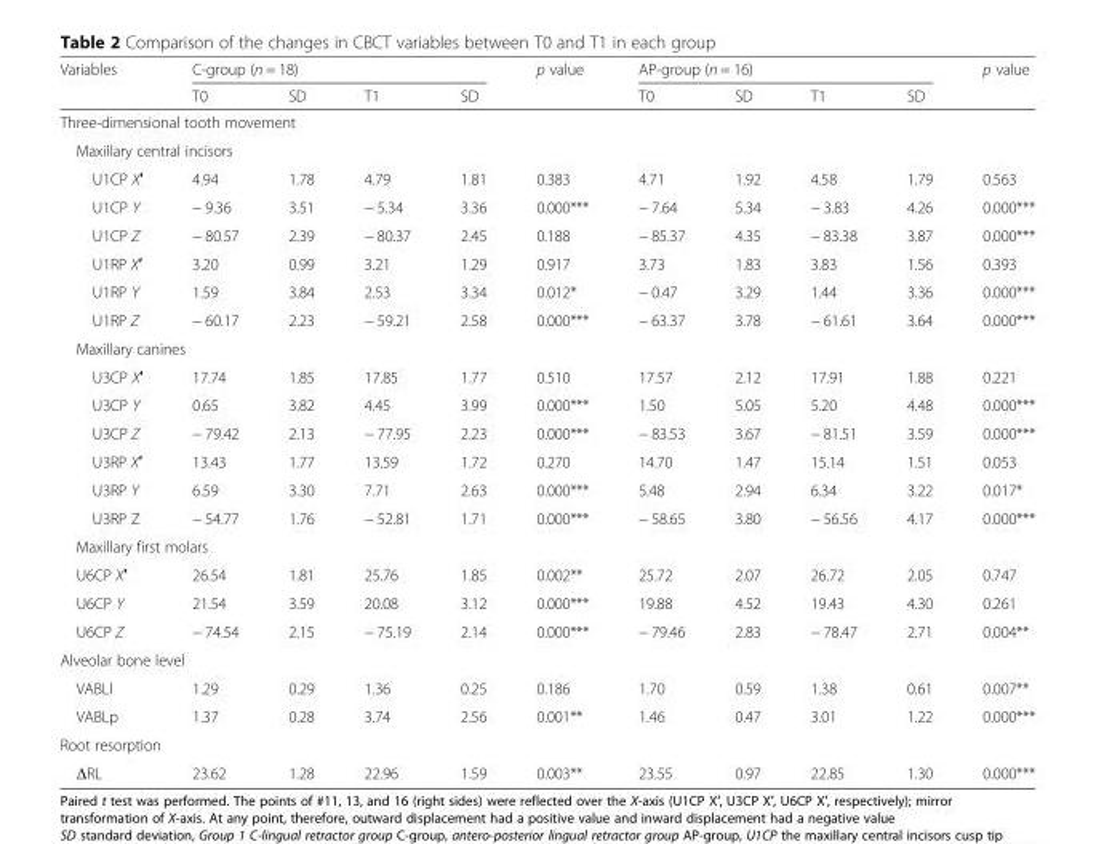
<table><thead><tr><td rowspan="2">Variables</td><td colspan="4">C-group (n = 18)</td><td rowspan="2">p value</td><td colspan="4">AP-group (n = 16)</td><td rowspan="2">p value</td></tr><tr><td>T0</td><td>SD</td><td>T1</td><td>SD</td><td>T0</td><td>SD</td><td>T1</td><td>SD</td></tr></thead><tbody><tr><td colspan="11">Three-dimensional tooth movement</td></tr><tr><td colspan="11">Maxillary central incisors</td></tr><tr><td>U1CP X′</td><td>4.94</td><td>1.78</td><td>4.79</td><td>1.81</td><td>0.383</td><td>4.71</td><td>1.92</td><td>4.58</td><td>1.79</td><td>0.563</td></tr><tr><td>U1CP Y</td><td>− 9.36</td><td>3.51</td><td>− 5.34</td><td>3.36</td><td>0.000***</td><td>− 7.64</td><td>5.34</td><td>− 3.83</td><td>4.26</td><td>0.000***</td></tr><tr><td>U1CP Z</td><td>− 80.57</td><td>2.39</td><td>− 80.37</td><td>2.45</td><td>0.188</td><td>− 85.37</td><td>4.35</td><td>− 83.38</td><td>3.87</td><td>0.000***</td></tr><tr><td>U1RP X′</td><td>3.20</td><td>0.99</td><td>3.21</td><td>1.29</td><td>0.917</td><td>3.73</td><td>1.83</td><td>3.83</td><td>1.56</td><td>0.393</td></tr><tr><td>U1RP Y</td><td>1.59</td><td>3.84</td><td>2.53</td><td>3.34</td><td>0.012*</td><td>− 0.47</td><td>3.29</td><td>1.44</td><td>3.36</td><td>0.000***</td></tr><tr><td>U1RP Z</td><td>− 60.17</td><td>2.23</td><td>− 59.21</td><td>2.58</td><td>0.000***</td><td>− 63.37</td><td>3.78</td><td>− 61.61</td><td>3.64</td><td>0.000***</td></tr><tr><td colspan="11">Maxillary canines</td></tr><tr><td>U3CP X′</td><td>17.74</td><td>1.85</td><td>17.85</td><td>1.77</td><td>0.510</td><td>17.57</td><td>2.12</td><td>17.91</td><td>1.88</td><td>0.221</td></tr><tr><td>U3CP Y</td><td>0.65</td><td>3.82</td><td>4.45</td><td>3.99</td><td>0.000***</td><td>1.50</td><td>5.05</td><td>5.20</td><td>4.48</td><td>0.000***</td></tr><tr><td>U3CP Z</td><td>− 79.42</td><td>2.13</td><td>− 77.95</td><td>2.23</td><td>0.000***</td><td>− 83.53</td><td>3.67</td><td>− 81.51</td><td>3.59</td><td>0.000***</td></tr><tr><td>U3RP X′</td><td>13.43</td><td>1.77</td><td>13.59</td><td>1.72</td><td>0.270</td><td>14.70</td><td>1.47</td><td>15.14</td><td>1.51</td><td>0.053</td></tr><tr><td>U3RP Y</td><td>6.59</td><td>3.30</td><td>7.71</td><td>2.63</td><td>0.000***</td><td>5.48</td><td>2.94</td><td>6.34</td><td>3.22</td><td>0.017*</td></tr><tr><td>U3RP Z</td><td>− 54.77</td><td>1.76</td><td>− 52.81</td><td>1.71</td><td>0.000***</td><td>− 58.65</td><td>3.80</td><td>− 56.56</td><td>4.17</td><td>0.000***</td></tr><tr><td colspan="11">Maxillary first molars</td></tr><tr><td>U6CP X′</td><td>26.54</td><td>1.81</td><td>25.76</td><td>1.85</td><td>0.002**</td><td>25.72</td><td>2.07</td><td>26.72</td><td>2.05</td><td>0.747</td></tr><tr><td>U6CP Y</td><td>21.54</td><td>3.59</td><td>20.08</td><td>3.12</td><td>0.000***</td><td>19.88</td><td>4.52</td><td>19.43</td><td>4.30</td><td>0.261</td></tr><tr><td>U6CP Z</td><td>− 74.54</td><td>2.15</td><td>− 75.19</td><td>2.14</td><td>0.000***</td><td>− 79.46</td><td>2.83</td><td>− 78.47</td><td>2.71</td><td>0.004**</td></tr><tr><td colspan="11">Alveolar bone level</td></tr><tr><td>VABLl</td><td>1.29</td><td>0.29</td><td>1.36</td><td>0.25</td><td>0.186</td><td>1.70</td><td>0.59</td><td>1.38</td><td>0.61</td><td>0.007**</td></tr><tr><td>VABLp</td><td>1.37</td><td>0.28</td><td>3.74</td><td>2.56</td><td>0.001**</td><td>1.46</td><td>0.47</td><td>3.01</td><td>1.22</td><td>0.000***</td></tr><tr><td colspan="11">Root resorption</td></tr><tr><td>ΔRL</td><td>23.62</td><td>1.28</td><td>22.96</td><td>1.59</td><td>0.003**</td><td>23.55</td><td>0.97</td><td>22.85</td><td>1.30</td><td>0.000***</td></tr></tbody></table>